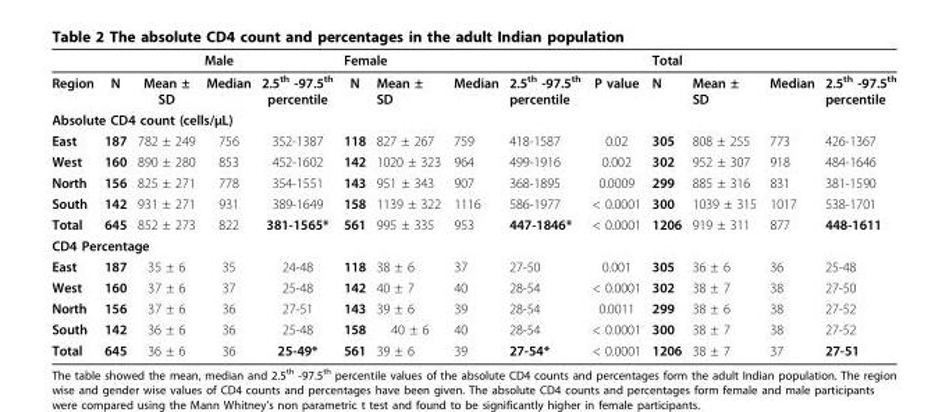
<table><thead><tr><td rowspan="2">Region</td><td colspan="4">Male</td><td colspan="4">Female</td><td rowspan="2">P value</td><td colspan="4">Total</td></tr><tr><td>N</td><td>Mean ± SD</td><td>Median</td><td>2.5<sup>th</sup> -97.5<sup>th</sup> percentile</td><td>N</td><td>Mean ± SD</td><td>Median</td><td>2.5<sup>th</sup> -97.5<sup>th</sup> percentile</td><td>N</td><td>Mean ± SD</td><td>Median</td><td>2.5<sup>th</sup> -97.5<sup>th</sup> percentile</td></tr></thead><tbody><tr><td colspan="14">Absolute CD4 count (cells/μL)</td></tr><tr><td>East</td><td>187</td><td>782 ± 249</td><td>756</td><td>352-1387</td><td>118</td><td>827 ± 267</td><td>759</td><td>418-1587</td><td>0.02</td><td>305</td><td>808 ± 255</td><td>773</td><td>426-1367</td></tr><tr><td>West</td><td>160</td><td>890 ± 280</td><td>853</td><td>452-1602</td><td>142</td><td>1020 ± 323</td><td>964</td><td>499-1916</td><td>0.002</td><td>302</td><td>952 ± 307</td><td>918</td><td>484-1646</td></tr><tr><td>North</td><td>156</td><td>825 ± 271</td><td>778</td><td>354-1551</td><td>143</td><td>951 ± 343</td><td>907</td><td>368-1895</td><td>0.0009</td><td>299</td><td>885 ± 316</td><td>831</td><td>381-1590</td></tr><tr><td>South</td><td>142</td><td>931 ± 271</td><td>931</td><td>389-1649</td><td>158</td><td>1139 ± 322</td><td>1116</td><td>586-1977</td><td>&lt; 0.0001</td><td>300</td><td>1039 ± 315</td><td>1017</td><td>538-1701</td></tr><tr><td>Total</td><td>645</td><td>852 ± 273</td><td>822</td><td>381-1565*</td><td>561</td><td>995 ± 335</td><td>953</td><td>447-1846*</td><td>&lt; 0.0001</td><td>1206</td><td>919 ± 311</td><td>877</td><td>448-1611</td></tr><tr><td colspan="14">CD4 Percentage</td></tr><tr><td>East</td><td>187</td><td>35 ± 6</td><td>35</td><td>24-48</td><td>118</td><td>38 ± 6</td><td>37</td><td>27-50</td><td>0.001</td><td>305</td><td>36 ± 6</td><td>36</td><td>25-48</td></tr><tr><td>West</td><td>160</td><td>37 ± 6</td><td>37</td><td>25-48</td><td>142</td><td>40 ± 7</td><td>40</td><td>28-54</td><td>&lt; 0.0001</td><td>302</td><td>38 ± 7</td><td>38</td><td>27-50</td></tr><tr><td>North</td><td>156</td><td>37 ± 6</td><td>36</td><td>27-51</td><td>143</td><td>39 ± 6</td><td>39</td><td>28-54</td><td>0.0011</td><td>299</td><td>38 ± 6</td><td>38</td><td>27-52</td></tr><tr><td>South</td><td>142</td><td>36 ± 6</td><td>36</td><td>25-48</td><td>158</td><td>40 ± 6</td><td>40</td><td>28-54</td><td>&lt; 0.0001</td><td>300</td><td>38 ± 7</td><td>38</td><td>27-52</td></tr><tr><td>Total</td><td>645</td><td>36 ± 6</td><td>36</td><td>25-49*</td><td>561</td><td>39 ± 6</td><td>39</td><td>27-54*</td><td>&lt; 0.0001</td><td>1206</td><td>38 ± 7</td><td>37</td><td>27-51</td></tr></tbody></table>